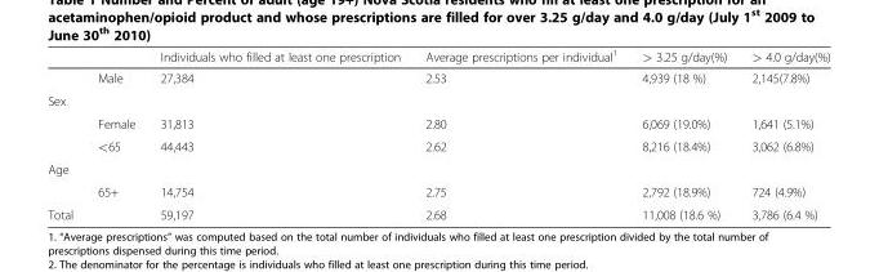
<table><thead><tr><td></td><td></td><td>Individuals who filled at least one prescription</td><td>Average prescriptions per individual<sup>1</sup></td><td>&gt; 3.25 g/day(%)</td><td>&gt; 4.0 g/day(%)</td></tr></thead><tbody><tr><td></td><td>Male</td><td>27,384</td><td>2.53</td><td>4,939 (18 %)</td><td>2,145(7.8%)</td></tr><tr><td colspan="6">Sex</td></tr><tr><td></td><td>Female</td><td>31,813</td><td>2.80</td><td>6,069 (19.0%)</td><td>1,641 (5.1%)</td></tr><tr><td></td><td>&lt;65</td><td>44,443</td><td>2.62</td><td>8,216 (18.4%)</td><td>3,062 (6.8%)</td></tr><tr><td colspan="6">Age</td></tr><tr><td></td><td>65+</td><td>14,754</td><td>2.75</td><td>2,792 (18.9%)</td><td>724 (4.9%)</td></tr><tr><td>Total</td><td></td><td>59,197</td><td>2.68</td><td>11,008 (18.6 %)</td><td>3,786 (6.4 %)</td></tr></tbody></table>